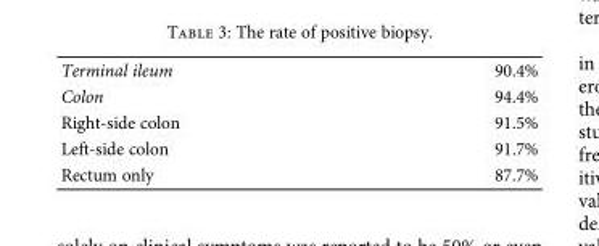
<table><tbody><tr><td>Terminal ileum</td><td>90.4%</td></tr><tr><td>Colon</td><td>94.4%</td></tr><tr><td>Right-side colon</td><td>91.5%</td></tr><tr><td>Left-side colon</td><td>91.7%</td></tr><tr><td>Rectum only</td><td>87.7%</td></tr></tbody></table>